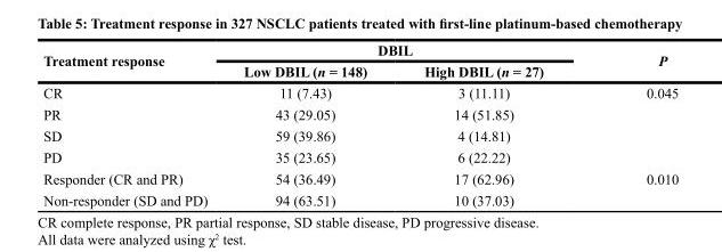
<table><thead><tr><td rowspan="2">Treatment response</td><td colspan="2">DBIL</td><td rowspan="2">P</td></tr><tr><td>Low DBIL (n = 148)</td><td>High DBIL (n = 27)</td></tr></thead><tbody><tr><td>CR</td><td>11 (7.43)</td><td>3 (11.11)</td><td>0.045</td></tr><tr><td>PR</td><td>43 (29.05)</td><td>14 (51.85)</td><td></td></tr><tr><td>SD</td><td>59 (39.86)</td><td>4 (14.81)</td><td></td></tr><tr><td>PD</td><td>35 (23.65)</td><td>6 (22.22)</td><td></td></tr><tr><td>Responder (CR and PR)</td><td>54 (36.49)</td><td>17 (62.96)</td><td>0.010</td></tr><tr><td>Non-responder (SD and PD)</td><td>94 (63.51)</td><td>10 (37.03)</td><td></td></tr></tbody></table>